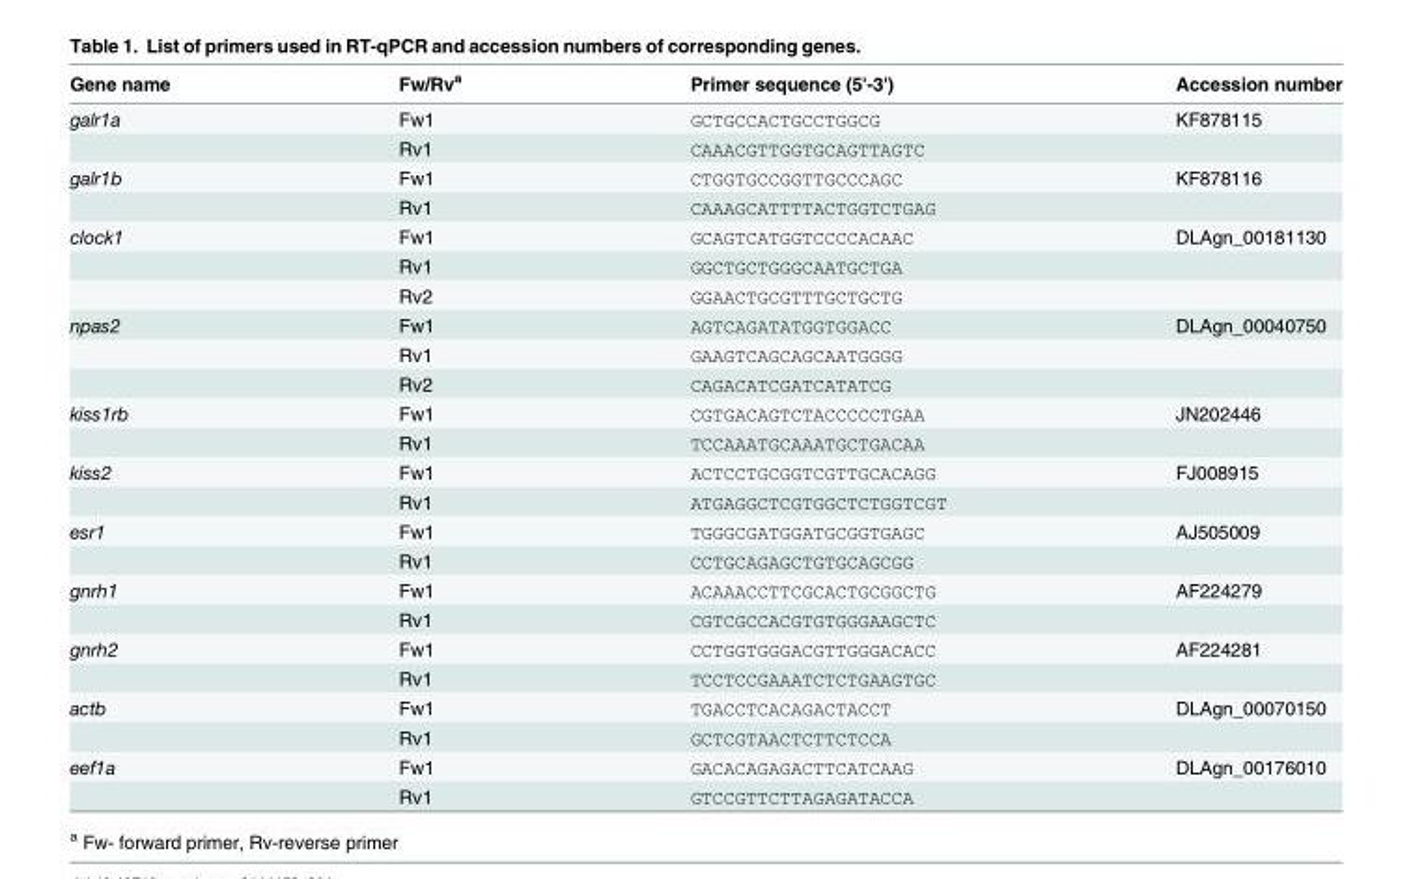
<table><thead><tr><td>Gene name</td><td>Fw/Rv<sup>a</sup></td><td>Primer sequence (5&#x27;-3&#x27;)</td><td>Accession number</td></tr></thead><tbody><tr><td rowspan="2">galr1a</td><td>Fw1</td><td>GCTGCCACTGCCTGGCG</td><td>KF878115</td></tr><tr><td>Rv1</td><td>CAAACGTTGGTGCAGTTAGTC</td><td></td></tr><tr><td rowspan="2">galr1b</td><td>Fw1</td><td>CTGGTGCCGGTTGCCCAGC</td><td>KF878116</td></tr><tr><td>Rv1</td><td>CAAAGCATTTTACTGGTCTGAG</td><td></td></tr><tr><td rowspan="3">clock1</td><td>Fw1</td><td>GCAGTCATGGTCCCCACAAC</td><td>DLAgn_00181130</td></tr><tr><td>Rv1</td><td>GGCTGCTGGGCAATGCTGA</td><td></td></tr><tr><td>Rv2</td><td>GGAACTGCGTTTGCTGCTG</td><td></td></tr><tr><td rowspan="3">npas2</td><td>Fw1</td><td>AGTCAGATATGGTGGACC</td><td>DLAgn_00040750</td></tr><tr><td>Rv1</td><td>GAAGTCAGCAGCAATGGGG</td><td></td></tr><tr><td>Rv2</td><td>CAGACATCGATCATATCG</td><td></td></tr><tr><td rowspan="2">kiss1rb</td><td>Fw1</td><td>CGTGACAGTCTACCCCCTGAA</td><td>JN202446</td></tr><tr><td>Rv1</td><td>TCCAAATGCAAATGCTGACAA</td><td></td></tr><tr><td rowspan="2">kiss2</td><td>Fw1</td><td>ACTCCTGCGGTCGTTGCACAGG</td><td>FJ008915</td></tr><tr><td>Rv1</td><td>ATGAGGCTCGTGGCTCTGGTCGT</td><td></td></tr><tr><td rowspan="2">esr1</td><td>Fw1</td><td>TGGGCGATGGATGCGGTGAGC</td><td>AJ505009</td></tr><tr><td>Rv1</td><td>CCTGCAGAGCTGTGCAGCGG</td><td></td></tr><tr><td rowspan="2">gnrh1</td><td>Fw1</td><td>ACAAACCTTCGCACTGCGGCTG</td><td>AF224279</td></tr><tr><td>Rv1</td><td>CGTCGCCACGTGTGGGAAGCTC</td><td></td></tr><tr><td rowspan="2">gnrh2</td><td>Fw1</td><td>CCTGGTGGGACGTTGGGACACC</td><td>AF224281</td></tr><tr><td>Rv1</td><td>TCCTCCGAAATCTCTGAAGTGC</td><td></td></tr><tr><td rowspan="2">actb</td><td>Fw1</td><td>TGACCTCACAGACTACCT</td><td>DLAgn_00070150</td></tr><tr><td>Rv1</td><td>GCTCGTAACTCTTCTCCA</td><td></td></tr><tr><td rowspan="2">eef1a</td><td>Fw1</td><td>GACACAGAGACTTCATCAAG</td><td>DLAgn_00176010</td></tr><tr><td>Rv1</td><td>GTCCGTTCTTAGAGATACCA</td><td></td></tr></tbody></table>